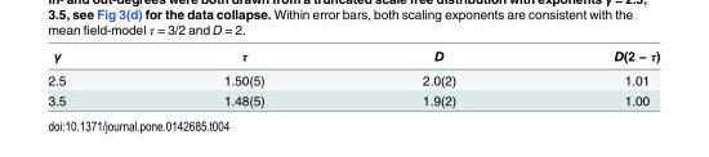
<table><thead><tr><td>γ</td><td>τ</td><td>D</td><td>D(2 − τ)</td></tr></thead><tbody><tr><td>2.5</td><td>1.50(5)</td><td>2.0(2)</td><td>1.01</td></tr><tr><td>3.5</td><td>1.48(5)</td><td>1.9(2)</td><td>1.00</td></tr></tbody></table>